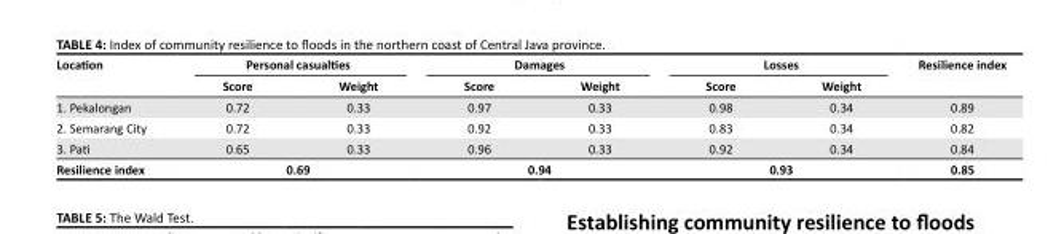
<table><thead><tr><td rowspan="2">Location</td><td colspan="2">Personal casualties</td><td colspan="2">Damages</td><td colspan="2">Losses</td><td rowspan="2">Resilience index</td></tr><tr><td>Score</td><td>Weight</td><td>Score</td><td>Weight</td><td>Score</td><td>Weight</td></tr></thead><tbody><tr><td>1. Pekalongan</td><td>0.72</td><td>0.33</td><td>0.97</td><td>0.33</td><td>0.98</td><td>0.34</td><td>0.89</td></tr><tr><td>2. Semarang City</td><td>0.72</td><td>0.33</td><td>0.92</td><td>0.33</td><td>0.83</td><td>0.34</td><td>0.82</td></tr><tr><td>3. Pati</td><td>0.65</td><td>0.33</td><td>0.96</td><td>0.33</td><td>0.92</td><td>0.34</td><td>0.84</td></tr><tr><td>Resilience index</td><td colspan="2">0.69</td><td colspan="2">0.94</td><td colspan="2">0.93</td><td>0.85</td></tr></tbody></table>